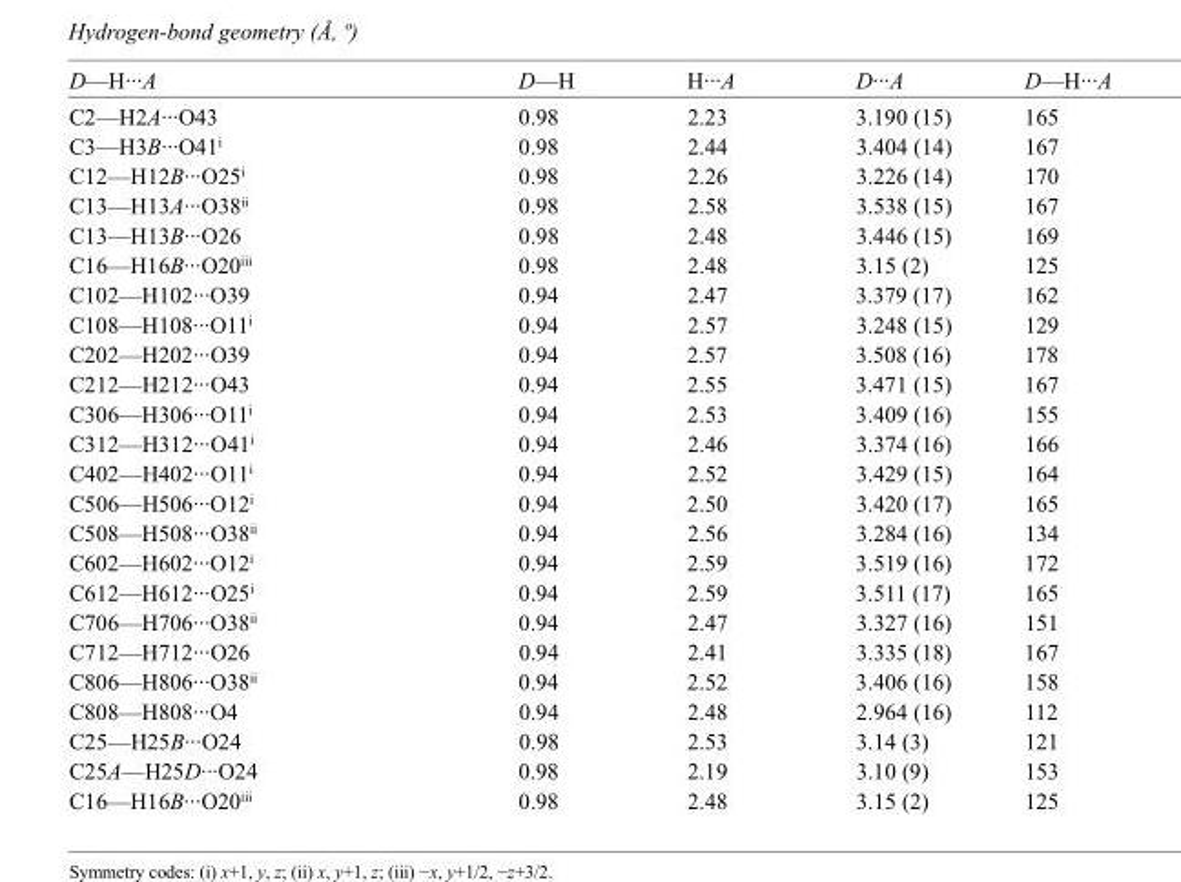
<table><tbody><tr><td>D—H···A</td><td>D—H</td><td>H···A</td><td>D···A</td><td>D—H···A</td></tr><tr><td>C2—H2A···O43</td><td>0.98</td><td>2.23</td><td>3.190 (15)</td><td>165</td></tr><tr><td>C3—H3B···O41<sup>i</sup></td><td>0.98</td><td>2.44</td><td>3.404 (14)</td><td>167</td></tr><tr><td>C12—H12B···O25<sup>i</sup></td><td>0.98</td><td>2.26</td><td>3.226 (14)</td><td>170</td></tr><tr><td>C13—H13A···O38<sup>ii</sup></td><td>0.98</td><td>2.58</td><td>3.538 (15)</td><td>167</td></tr><tr><td>C13—H13B···O26</td><td>0.98</td><td>2.48</td><td>3.446 (15)</td><td>169</td></tr><tr><td>C16—H16B···O20<sup>iii</sup></td><td>0.98</td><td>2.48</td><td>3.15 (2)</td><td>125</td></tr><tr><td>C102—H102···O39</td><td>0.94</td><td>2.47</td><td>3.379 (17)</td><td>162</td></tr><tr><td>C108—H108···O11<sup>i</sup></td><td>0.94</td><td>2.57</td><td>3.248 (15)</td><td>129</td></tr><tr><td>C202—H202···O39</td><td>0.94</td><td>2.57</td><td>3.508 (16)</td><td>178</td></tr><tr><td>C212—H212···O43</td><td>0.94</td><td>2.55</td><td>3.471 (15)</td><td>167</td></tr><tr><td>C306—H306···O11<sup>i</sup></td><td>0.94</td><td>2.53</td><td>3.409 (16)</td><td>155</td></tr><tr><td>C312—H312···O41<sup>i</sup></td><td>0.94</td><td>2.46</td><td>3.374 (16)</td><td>166</td></tr><tr><td>C402—H402···O11<sup>i</sup></td><td>0.94</td><td>2.52</td><td>3.429 (15)</td><td>164</td></tr><tr><td>C506—H506···O12<sup>i</sup></td><td>0.94</td><td>2.50</td><td>3.420 (17)</td><td>165</td></tr><tr><td>C508—H508···O38<sup>ii</sup></td><td>0.94</td><td>2.56</td><td>3.284 (16)</td><td>134</td></tr><tr><td>C602—H602···O12<sup>i</sup></td><td>0.94</td><td>2.59</td><td>3.519 (16)</td><td>172</td></tr><tr><td>C612—H612···O25<sup>i</sup></td><td>0.94</td><td>2.59</td><td>3.511 (17)</td><td>165</td></tr><tr><td>C706—H706···O38<sup>ii</sup></td><td>0.94</td><td>2.47</td><td>3.327 (16)</td><td>151</td></tr><tr><td>C712—H712···O26</td><td>0.94</td><td>2.41</td><td>3.335 (18)</td><td>167</td></tr><tr><td>C806—H806···O38<sup>ii</sup></td><td>0.94</td><td>2.52</td><td>3.406 (16)</td><td>158</td></tr><tr><td>C808—H808···O4</td><td>0.94</td><td>2.48</td><td>2.964 (16)</td><td>112</td></tr><tr><td>C25—H25B···O24</td><td>0.98</td><td>2.53</td><td>3.14 (3)</td><td>121</td></tr><tr><td>C25A—H25D···O24</td><td>0.98</td><td>2.19</td><td>3.10 (9)</td><td>153</td></tr><tr><td>C16—H16B···O20<sup>iii</sup></td><td>0.98</td><td>2.48</td><td>3.15 (2)</td><td>125</td></tr></tbody></table>